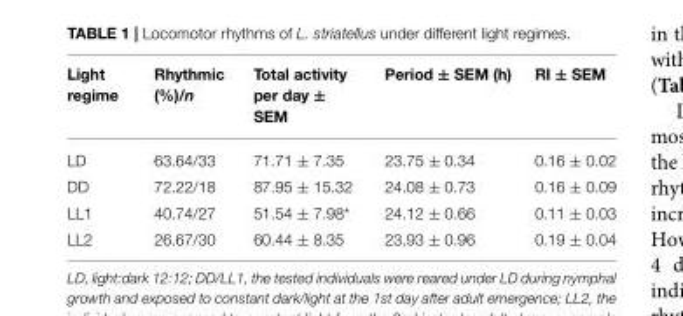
<table><thead><tr><td>Light regime</td><td>Rhythmic (%)/n</td><td>Total activity per day ± SEM</td><td>Period ± SEM (h)</td><td>RI ± SEM</td></tr></thead><tbody><tr><td>LD</td><td>63.64/33</td><td>71.71 ± 7.35</td><td>23.75 ± 0.34</td><td>0.16 ± 0.02</td></tr><tr><td>DD</td><td>72.22/18</td><td>87.95 ± 15.32</td><td>24.08 ± 0.73</td><td>0.16 ± 0.09</td></tr><tr><td>LL1</td><td>40.74/27</td><td>51.54 ± 7.98*</td><td>24.12 ± 0.66</td><td>0.11 ± 0.03</td></tr><tr><td>LL2</td><td>26.67/30</td><td>60.44 ± 8.35</td><td>23.93 ± 0.96</td><td>0.19 ± 0.04</td></tr></tbody></table>